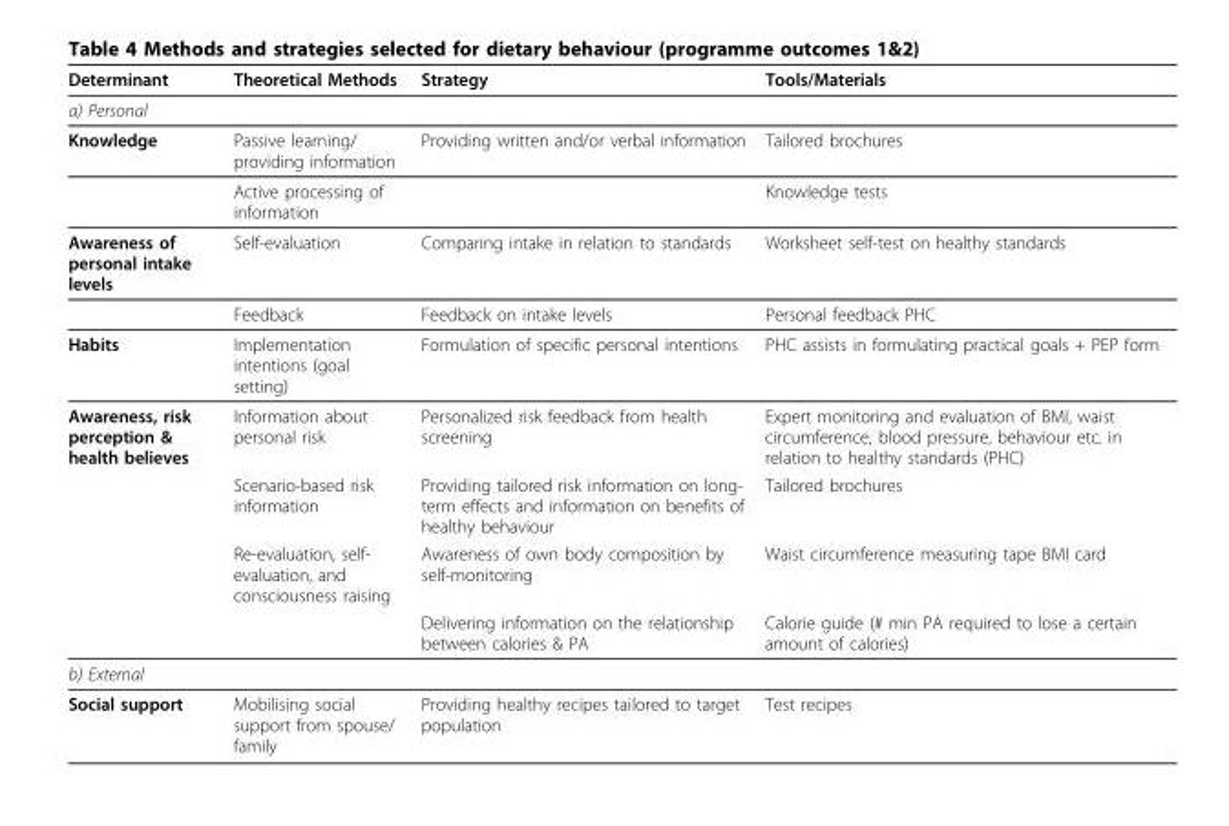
<table><thead><tr><td>Determinant</td><td>Theoretical Methods</td><td>Strategy</td><td>Tools/Materials</td></tr></thead><tbody><tr><td colspan="4">a) Personal</td></tr><tr><td rowspan="2">Knowledge</td><td>Passive learning/ providing information</td><td>Providing written and/or verbal information</td><td>Tailored brochures</td></tr><tr><td>Active processing of information</td><td></td><td>Knowledge tests</td></tr><tr><td rowspan="2">Awareness of personal intake levels</td><td>Self-evaluation</td><td>Comparing intake in relation to standards</td><td>Worksheet self-test on healthy standards</td></tr><tr><td>Feedback</td><td>Feedback on intake levels</td><td>Personal feedback PHC</td></tr><tr><td>Habits</td><td>Implementation intentions (goal setting)</td><td>Formulation of specific personal intentions</td><td>PHC assists in formulating practical goals + PEP form</td></tr><tr><td rowspan="4">Awareness, risk perception &amp; health believes</td><td>Information about personal risk</td><td>Personalized risk feedback from health screening</td><td>Expert monitoring and evaluation of BMI, waist circumference, blood pressure, behaviour etc. in relation to healthy standards (PHC)</td></tr><tr><td>Scenario-based risk information</td><td>Providing tailored risk information on long- term effects and information on benefits of healthy behaviour</td><td>Tailored brochures</td></tr><tr><td>Re-evaluation, self- evaluation, and consciousness raising</td><td>Awareness of own body composition by self-monitoring</td><td>Waist circumference measuring tape BMI card</td></tr><tr><td></td><td>Delivering information on the relationship between calories &amp; PA</td><td>Calorie guide (# min PA required to lose a certain amount of calories)</td></tr><tr><td colspan="4">b) External</td></tr><tr><td>Social support</td><td>Mobilising social support from spouse/ family</td><td>Providing healthy recipes tailored to target population</td><td>Test recipes</td></tr></tbody></table>